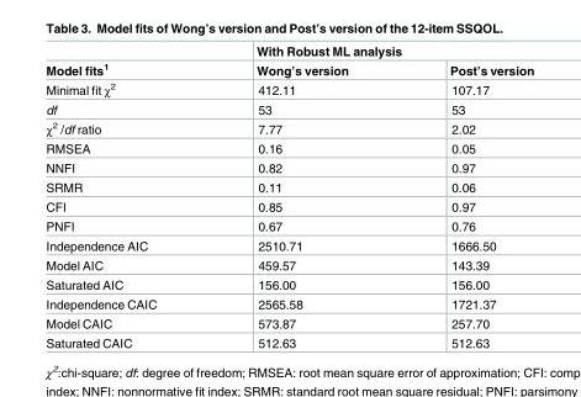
<table><thead><tr><td rowspan="2">Model fits<sup>1</sup></td><td colspan="2">With Robust ML analysis</td></tr><tr><td>Wong’s version</td><td>Post’s version</td></tr></thead><tbody><tr><td>Minimal fit χ<sup>2</sup></td><td>412.11</td><td>107.17</td></tr><tr><td>df</td><td>53</td><td>53</td></tr><tr><td>χ<sup>2</sup> /df ratio</td><td>7.77</td><td>2.02</td></tr><tr><td>RMSEA</td><td>0.16</td><td>0.05</td></tr><tr><td>NNFI</td><td>0.82</td><td>0.97</td></tr><tr><td>SRMR</td><td>0.11</td><td>0.06</td></tr><tr><td>CFI</td><td>0.85</td><td>0.97</td></tr><tr><td>PNFI</td><td>0.67</td><td>0.76</td></tr><tr><td>Independence AIC</td><td>2510.71</td><td>1666.50</td></tr><tr><td>Model AIC</td><td>459.57</td><td>143.39</td></tr><tr><td>Saturated AIC</td><td>156.00</td><td>156.00</td></tr><tr><td>Independence CAIC</td><td>2565.58</td><td>1721.37</td></tr><tr><td>Model CAIC</td><td>573.87</td><td>257.70</td></tr><tr><td>Saturated CAIC</td><td>512.63</td><td>512.63</td></tr></tbody></table>